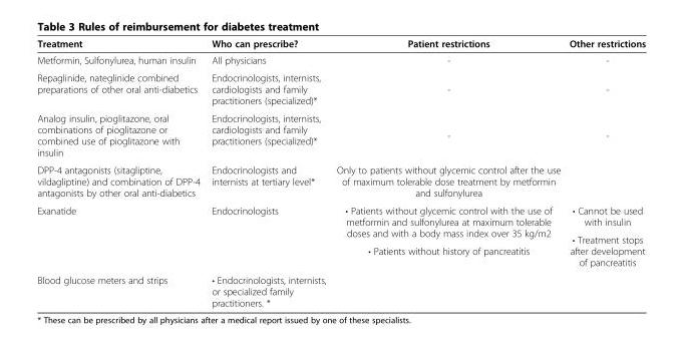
<table><thead><tr><td>Treatment</td><td>Who can prescribe?</td><td>Patient restrictions</td><td>Other restrictions</td></tr></thead><tbody><tr><td>Metformin, Sulfonylurea, human insulin</td><td>All physicians</td><td>-</td><td>-</td></tr><tr><td>Repaglinide, nateglinide combined preparations of other oral anti-diabetics</td><td>Endocrinologists, internists, cardiologists and family practitioners (specialized)*</td><td>-</td><td>-</td></tr><tr><td>Analog insulin, pioglitazone, oral combinations of pioglitazone or combined use of pioglitazone with insulin</td><td>Endocrinologists, internists, cardiologists and family practitioners (specialized)*</td><td>-</td><td>-</td></tr><tr><td>DPP-4 antagonists (sitagliptine, vildagliptine) and combination of DPP-4 antagonists by other oral anti-diabetics</td><td>Endocrinologists and internists at tertiary level*</td><td>Only to patients without glycemic control after the use of maximum tolerable dose treatment by metformin and sulfonylurea</td><td></td></tr><tr><td rowspan="3">Exanatide</td><td rowspan="3">Endocrinologists</td><td rowspan="2">• Patients without glycemic control with the use of metformin and sulfonylurea at maximum tolerable doses and with a body mass index over 35 kg/m2</td><td>• Cannot be used with insulin</td></tr><tr><td rowspan="2">• Treatment stops after development of pancreatitis</td></tr><tr><td>• Patients without history of pancreatitis</td></tr><tr><td>Blood glucose meters and strips</td><td>• Endocrinologists, internists, or specialized family practitioners. *</td><td></td><td></td></tr></tbody></table>